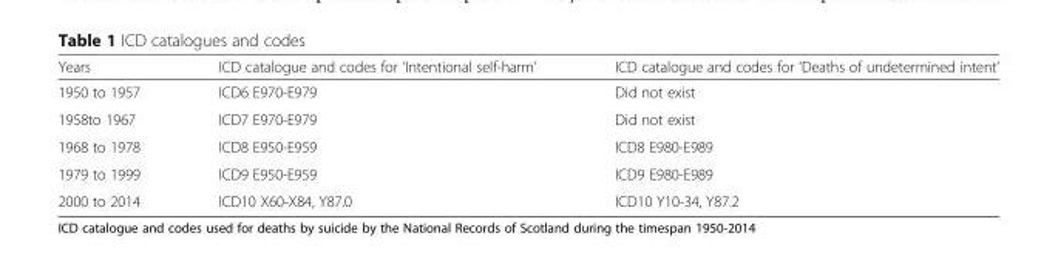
<table><thead><tr><td>Years</td><td>ICD catalogue and codes for ‘Intentional self-harm’</td><td>ICD catalogue and codes for ‘Deaths of undetermined intent’</td></tr></thead><tbody><tr><td>1950 to 1957</td><td>ICD6 E970-E979</td><td>Did not exist</td></tr><tr><td>1958to 1967</td><td>ICD7 E970-E979</td><td>Did not exist</td></tr><tr><td>1968 to 1978</td><td>ICD8 E950-E959</td><td>ICD8 E980-E989</td></tr><tr><td>1979 to 1999</td><td>ICD9 E950-E959</td><td>ICD9 E980-E989</td></tr><tr><td>2000 to 2014</td><td>ICD10 X60-X84, Y87.0</td><td>ICD10 Y10-34, Y87.2</td></tr></tbody></table>